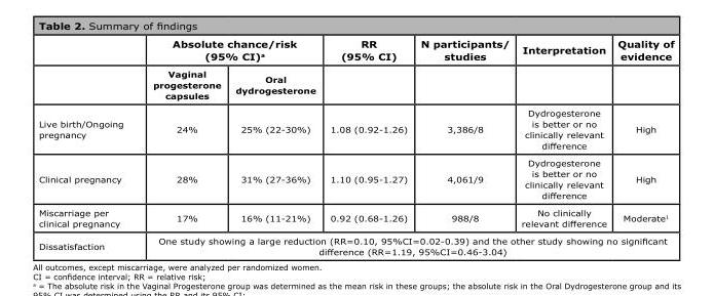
<table><thead><tr><td rowspan="2"></td><td colspan="2">Absolute chance/risk (95% CI)<sup>a</sup></td><td rowspan="2">RR (95% CI)</td><td rowspan="2">N participants/ studies</td><td rowspan="2">Interpretation</td><td rowspan="2">Quality of evidence</td></tr><tr><td>Vaginal progesterone capsules</td><td>Oral dydrogesterone</td></tr></thead><tbody><tr><td>Live birth/Ongoing pregnancy</td><td>24%</td><td>25% (22-30%)</td><td>1.08 (0.92-1.26)</td><td>3,386/8</td><td>Dydrogesterone is better or no clinically relevant difference</td><td>High</td></tr><tr><td>Clinical pregnancy</td><td>28%</td><td>31% (27-36%)</td><td>1.10 (0.95-1.27)</td><td>4,061/9</td><td>Dydrogesterone is better or no clinically relevant difference</td><td>High</td></tr><tr><td>Miscarriage per clinical pregnancy</td><td>17%</td><td>16% (11-21%)</td><td>0.92 (0.68-1.26)</td><td>988/8</td><td>No clinically relevant difference</td><td>Moderate<sup>1</sup></td></tr><tr><td>Dissatisfaction</td><td colspan="6">One study showing a large reduction (RR=0.10, 95%CI=0.02-0.39) and the other study showing no significant difference (RR=1.19, 95%CI=0.46-3.04)</td></tr></tbody></table>